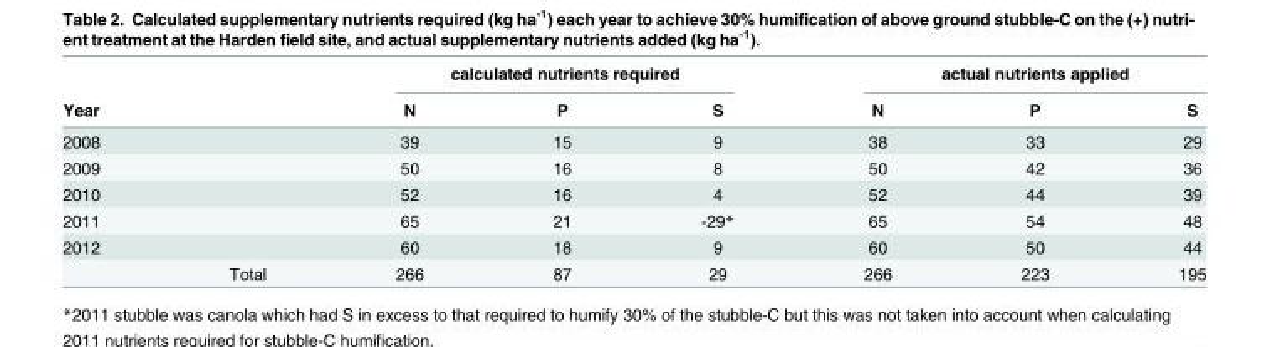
<table><thead><tr><td rowspan="2">Year</td><td rowspan="2"></td><td colspan="3">calculated nutrients required</td><td colspan="3">actual nutrients applied</td></tr><tr><td>N</td><td>P</td><td>S</td><td>N</td><td>P</td><td>S</td></tr></thead><tbody><tr><td>2008</td><td></td><td>39</td><td>15</td><td>9</td><td>38</td><td>33</td><td>29</td></tr><tr><td>2009</td><td></td><td>50</td><td>16</td><td>8</td><td>50</td><td>42</td><td>36</td></tr><tr><td>2010</td><td></td><td>52</td><td>16</td><td>4</td><td>52</td><td>44</td><td>39</td></tr><tr><td>2011</td><td></td><td>65</td><td>21</td><td>-29*</td><td>65</td><td>54</td><td>48</td></tr><tr><td rowspan="2">2012</td><td></td><td>60</td><td>18</td><td>9</td><td>60</td><td>50</td><td>44</td></tr><tr><td>Total</td><td>266</td><td>87</td><td>29</td><td>266</td><td>223</td><td>195</td></tr></tbody></table>